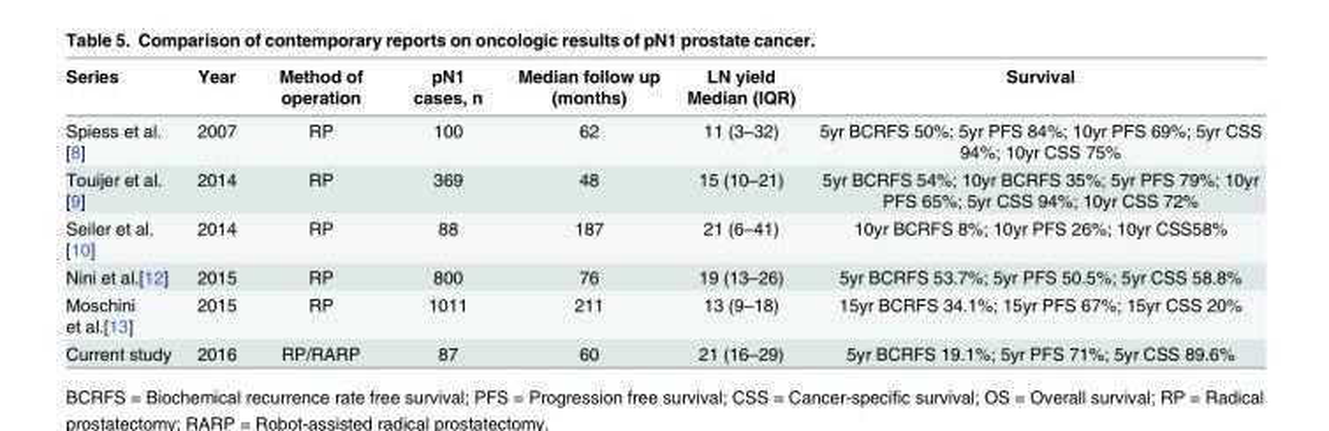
<table><thead><tr><td>Series</td><td>Year</td><td>Method of operation</td><td>pN1 cases, n</td><td>Median follow up (months)</td><td>LN yield Median (IQR)</td><td>Survival</td></tr></thead><tbody><tr><td>Spiess et al. [8]</td><td>2007</td><td>RP</td><td>100</td><td>62</td><td>11 (3–32)</td><td>5yr BCRFS 50%; 5yr PFS 84%; 10yr PFS 69%; 5yr CSS 94%; 10yr CSS 75%</td></tr><tr><td>Touijer et al. [9]</td><td>2014</td><td>RP</td><td>369</td><td>48</td><td>15 (10–21)</td><td>5yr BCRFS 54%; 10yr BCRFS 35%; 5yr PFS 79%; 10yr PFS 65%; 5yr CSS 94%; 10yr CSS 72%</td></tr><tr><td>Seiler et al. [10]</td><td>2014</td><td>RP</td><td>88</td><td>187</td><td>21 (6–41)</td><td>10yr BCRFS 8%; 10yr PFS 26%; 10yr CSS58%</td></tr><tr><td>Nini et al.[12]</td><td>2015</td><td>RP</td><td>800</td><td>76</td><td>19 (13–26)</td><td>5yr BCRFS 53.7%; 5yr PFS 50.5%; 5yr CSS 58.8%</td></tr><tr><td>Moschini et al.[13]</td><td>2015</td><td>RP</td><td>1011</td><td>211</td><td>13 (9–18)</td><td>15yr BCRFS 34.1%; 15yr PFS 67%; 15yr CSS 20%</td></tr><tr><td>Current study</td><td>2016</td><td>RP/RARP</td><td>87</td><td>60</td><td>21 (16–29)</td><td>5yr BCRFS 19.1%; 5yr PFS 71%; 5yr CSS 89.6%</td></tr></tbody></table>